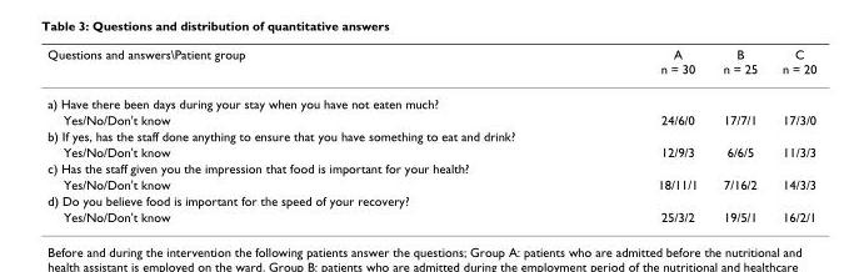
<table><thead><tr><td>Questions and answers\Patient group</td><td>A n = 30</td><td>B n = 25</td><td>C n = 20</td></tr></thead><tbody><tr><td colspan="4">a) Have there been days during your stay when you have not eaten much?</td></tr><tr><td>Yes/No/Don&#x27;t know</td><td>24/6/0</td><td>17/7/1</td><td>17/3/0</td></tr><tr><td colspan="4">b) If yes, has the staff done anything to ensure that you have something to eat and drink?</td></tr><tr><td>Yes/No/Don&#x27;t know</td><td>12/9/3</td><td>6/6/5</td><td>11/3/3</td></tr><tr><td colspan="4">c) Has the staff given you the impression that food is important for your health?</td></tr><tr><td>Yes/No/Don&#x27;t know</td><td>18/11/1</td><td>7/16/2</td><td>14/3/3</td></tr><tr><td colspan="4">d) Do you believe food is important for the speed of your recovery?</td></tr><tr><td>Yes/No/Don&#x27;t know</td><td>25/3/2</td><td>19/5/1</td><td>16/2/1</td></tr></tbody></table>